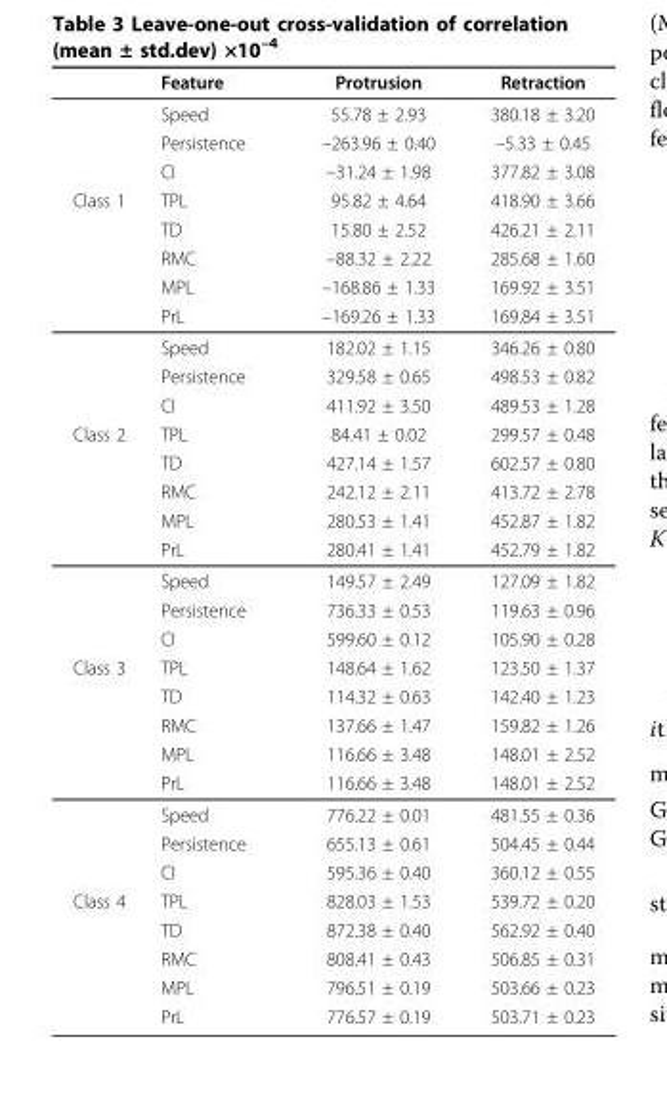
<table><thead><tr><td></td><td>Feature</td><td>Protrusion</td><td>Retraction</td></tr></thead><tbody><tr><td></td><td>Speed</td><td>55.78 ± 2.93</td><td>380.18 ± 3.20</td></tr><tr><td></td><td>Persistence</td><td>–263.96 ± 0.40</td><td>–5.33 ± 0.45</td></tr><tr><td></td><td>CI</td><td>–31.24 ± 1.98</td><td>377.82 ± 3.08</td></tr><tr><td rowspan="8">Class 1</td><td>TPL</td><td>95.82 ± 4.64</td><td>418.90 ± 3.66</td></tr><tr><td>TD</td><td>15.80 ± 2.52</td><td>426.21 ± 2.11</td></tr><tr><td>RMC</td><td>–88.32 ± 2.22</td><td>285.68 ± 1.60</td></tr><tr><td>MPL</td><td>–168.86 ± 1.33</td><td>169.92 ± 3.51</td></tr><tr><td>PrL</td><td>–169.26 ± 1.33</td><td>169.84 ± 3.51</td></tr><tr><td>Speed</td><td>182.02 ± 1.15</td><td>346.26 ± 0.80</td></tr><tr><td>Persistence</td><td>329.58 ± 0.65</td><td>498.53 ± 0.82</td></tr><tr><td>CI</td><td>411.92 ± 3.50</td><td>489.53 ± 1.28</td></tr><tr><td rowspan="8">Class 2</td><td>TPL</td><td>84.41 ± 0.02</td><td>299.57 ± 0.48</td></tr><tr><td>TD</td><td>427.14 ± 1.57</td><td>602.57 ± 0.80</td></tr><tr><td>RMC</td><td>242.12 ± 2.11</td><td>413.72 ± 2.78</td></tr><tr><td>MPL</td><td>280.53 ± 1.41</td><td>452.87 ± 1.82</td></tr><tr><td>PrL</td><td>280.41 ± 1.41</td><td>452.79 ± 1.82</td></tr><tr><td>Speed</td><td>149.57 ± 2.49</td><td>127.09 ± 1.82</td></tr><tr><td>Persistence</td><td>736.33 ± 0.53</td><td>119.63 ± 0.96</td></tr><tr><td>CI</td><td>599.60 ± 0.12</td><td>105.90 ± 0.28</td></tr><tr><td rowspan="8">Class 3</td><td>TPL</td><td>148.64 ± 1.62</td><td>123.50 ± 1.37</td></tr><tr><td>TD</td><td>114.32 ± 0.63</td><td>142.40 ± 1.23</td></tr><tr><td>RMC</td><td>137.66 ± 1.47</td><td>159.82 ± 1.26</td></tr><tr><td>MPL</td><td>116.66 ± 3.48</td><td>148.01 ± 2.52</td></tr><tr><td>PrL</td><td>116.66 ± 3.48</td><td>148.01 ± 2.52</td></tr><tr><td>Speed</td><td>776.22 ± 0.01</td><td>481.55 ± 0.36</td></tr><tr><td>Persistence</td><td>655.13 ± 0.61</td><td>504.45 ± 0.44</td></tr><tr><td>CI</td><td>595.36 ± 0.40</td><td>360.12 ± 0.55</td></tr><tr><td rowspan="5">Class 4</td><td>TPL</td><td>828.03 ± 1.53</td><td>539.72 ± 0.20</td></tr><tr><td>TD</td><td>872.38 ± 0.40</td><td>562.92 ± 0.40</td></tr><tr><td>RMC</td><td>808.41 ± 0.43</td><td>506.85 ± 0.31</td></tr><tr><td>MPL</td><td>796.51 ± 0.19</td><td>503.66 ± 0.23</td></tr><tr><td>PrL</td><td>776.57 ± 0.19</td><td>503.71 ± 0.23</td></tr></tbody></table>